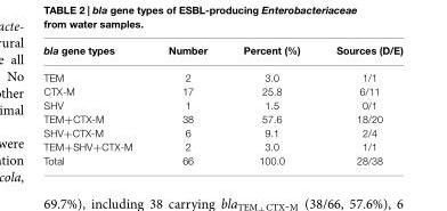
<table><thead><tr><td>bla gene types</td><td>Number</td><td>Percent (%)</td><td>Sources (D/E)</td></tr></thead><tbody><tr><td>TEM</td><td>2</td><td>3.0</td><td>1/1</td></tr><tr><td>CTX-M</td><td>17</td><td>25.8</td><td>6/11</td></tr><tr><td>SHV</td><td>1</td><td>1.5</td><td>0/1</td></tr><tr><td>TEM+CTX-M</td><td>38</td><td>57.6</td><td>18/20</td></tr><tr><td>SHV+CTX-M</td><td>6</td><td>9.1</td><td>2/4</td></tr><tr><td>TEM+SHV+CTX-M</td><td>2</td><td>3.0</td><td>1/1</td></tr><tr><td>Total</td><td>66</td><td>100.0</td><td>28/38</td></tr></tbody></table>